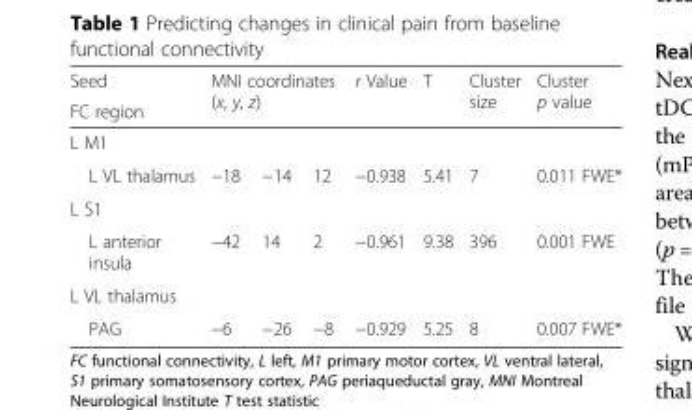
<table><thead><tr><td rowspan="2">Seed FC region</td><td rowspan="2" colspan="3">MNI coordinates (x, y, z)</td><td rowspan="2">r Value</td><td rowspan="2">T</td><td rowspan="2">Cluster size</td><td rowspan="2">Cluster p value</td></tr><tr></tr><tr><td colspan="8">L M1</td></tr><tr><td>L VL thalamus</td><td>−18</td><td>−14</td><td>12</td><td>−0.938</td><td>5.41</td><td>7</td><td>0.011 FWE*</td></tr></thead><tbody><tr><td colspan="8">L S1</td></tr><tr><td>L anterior insula</td><td>−42</td><td>14</td><td>2</td><td>−0.961</td><td>9.38</td><td>396</td><td>0.001 FWE</td></tr><tr><td colspan="8">L VL thalamus</td></tr><tr><td>PAG</td><td>−6</td><td>−26</td><td>−8</td><td>−0.929</td><td>5.25</td><td>8</td><td>0.007 FWE*</td></tr></tbody></table>